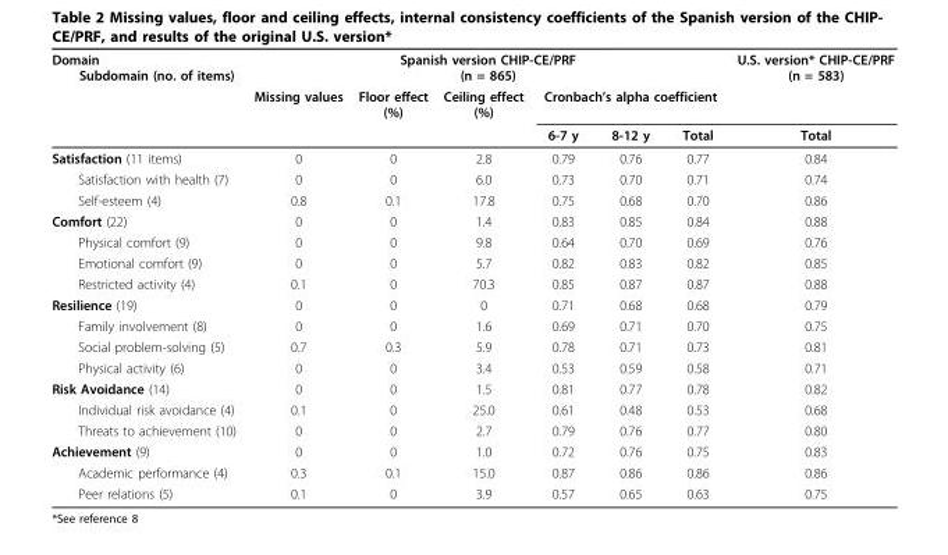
<table><thead><tr><td rowspan="3">Domain Subdomain (no. of items)</td><td colspan="6">Spanish version CHIP-CE/PRF (n = 865)</td><td rowspan="3">U.S. version* CHIP-CE/PRF (n = 583) Total</td></tr><tr><td rowspan="2">Missing values</td><td rowspan="2">Floor effect (%)</td><td rowspan="2">Ceiling effect (%)</td><td colspan="3">Cronbach’s alpha coefficient</td></tr><tr><td>6-7 y</td><td>8-12 y</td><td>Total</td></tr></thead><tbody><tr><td>Satisfaction (11 items)</td><td>0</td><td>0</td><td>2.8</td><td>0.79</td><td>0.76</td><td>0.77</td><td>0.84</td></tr><tr><td>Satisfaction with health (7)</td><td>0</td><td>0</td><td>6.0</td><td>0.73</td><td>0.70</td><td>0.71</td><td>0.74</td></tr><tr><td>Self-esteem (4)</td><td>0.8</td><td>0.1</td><td>17.8</td><td>0.75</td><td>0.68</td><td>0.70</td><td>0.86</td></tr><tr><td>Comfort (22)</td><td>0</td><td>0</td><td>1.4</td><td>0.83</td><td>0.85</td><td>0.84</td><td>0.88</td></tr><tr><td>Physical comfort (9)</td><td>0</td><td>0</td><td>9.8</td><td>0.64</td><td>0.70</td><td>0.69</td><td>0.76</td></tr><tr><td>Emotional comfort (9)</td><td>0</td><td>0</td><td>5.7</td><td>0.82</td><td>0.83</td><td>0.82</td><td>0.85</td></tr><tr><td>Restricted activity (4)</td><td>0.1</td><td>0</td><td>70.3</td><td>0.85</td><td>0.87</td><td>0.87</td><td>0.88</td></tr><tr><td>Resilience (19)</td><td>0</td><td>0</td><td>0</td><td>0.71</td><td>0.68</td><td>0.68</td><td>0.79</td></tr><tr><td>Family involvement (8)</td><td>0</td><td>0</td><td>1.6</td><td>0.69</td><td>0.71</td><td>0.70</td><td>0.75</td></tr><tr><td>Social problem-solving (5)</td><td>0.7</td><td>0.3</td><td>5.9</td><td>0.78</td><td>0.71</td><td>0.73</td><td>0.81</td></tr><tr><td>Physical activity (6)</td><td>0</td><td>0</td><td>3.4</td><td>0.53</td><td>0.59</td><td>0.58</td><td>0.71</td></tr><tr><td>Risk Avoidance (14)</td><td>0</td><td>0</td><td>1.5</td><td>0.81</td><td>0.77</td><td>0.78</td><td>0.82</td></tr><tr><td>Individual risk avoidance (4)</td><td>0.1</td><td>0</td><td>25.0</td><td>0.61</td><td>0.48</td><td>0.53</td><td>0.68</td></tr><tr><td>Threats to achievement (10)</td><td>0</td><td>0</td><td>2.7</td><td>0.79</td><td>0.76</td><td>0.77</td><td>0.80</td></tr><tr><td>Achievement (9)</td><td>0</td><td>0</td><td>1.0</td><td>0.72</td><td>0.76</td><td>0.75</td><td>0.83</td></tr><tr><td>Academic performance (4)</td><td>0.3</td><td>0.1</td><td>15.0</td><td>0.87</td><td>0.86</td><td>0.86</td><td>0.86</td></tr><tr><td>Peer relations (5)</td><td>0.1</td><td>0</td><td>3.9</td><td>0.57</td><td>0.65</td><td>0.63</td><td>0.75</td></tr></tbody></table>